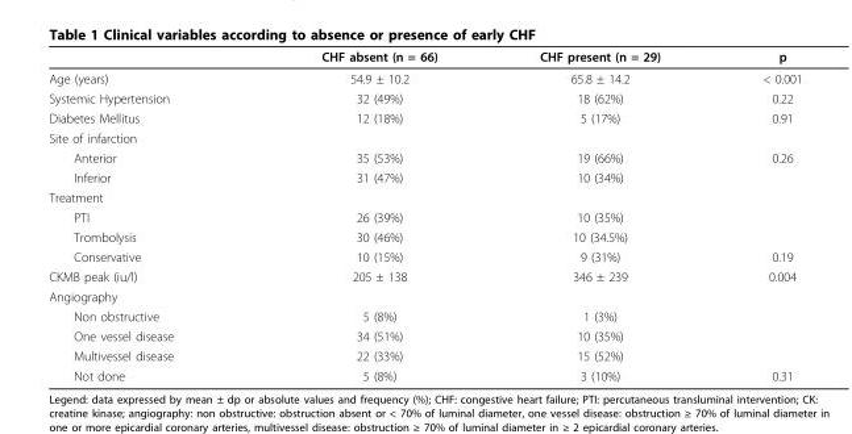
<table><thead><tr><td></td><td>CHF absent (n = 66)</td><td>CHF present (n = 29)</td><td>p</td></tr></thead><tbody><tr><td>Age (years)</td><td>54.9 ± 10.2</td><td>65.8 ± 14.2</td><td>&lt; 0.001</td></tr><tr><td>Systemic Hypertension</td><td>32 (49%)</td><td>18 (62%)</td><td>0.22</td></tr><tr><td>Diabetes Mellitus</td><td>12 (18%)</td><td>5 (17%)</td><td>0.91</td></tr><tr><td colspan="4">Site of infarction</td></tr><tr><td>Anterior</td><td>35 (53%)</td><td>19 (66%)</td><td>0.26</td></tr><tr><td>Inferior</td><td>31 (47%)</td><td>10 (34%)</td><td></td></tr><tr><td colspan="4">Treatment</td></tr><tr><td>PTI</td><td>26 (39%)</td><td>10 (35%)</td><td></td></tr><tr><td>Trombolysis</td><td>30 (46%)</td><td>10 (34.5%)</td><td></td></tr><tr><td>Conservative</td><td>10 (15%)</td><td>9 (31%)</td><td>0.19</td></tr><tr><td>CKMB peak (iu/l)</td><td>205 ± 138</td><td>346 ± 239</td><td>0.004</td></tr><tr><td colspan="4">Angiography</td></tr><tr><td>Non obstructive</td><td>5 (8%)</td><td>1 (3%)</td><td></td></tr><tr><td>One vessel disease</td><td>34 (51%)</td><td>10 (35%)</td><td></td></tr><tr><td>Multivessel disease</td><td>22 (33%)</td><td>15 (52%)</td><td></td></tr><tr><td>Not done</td><td>5 (8%)</td><td>3 (10%)</td><td>0.31</td></tr></tbody></table>